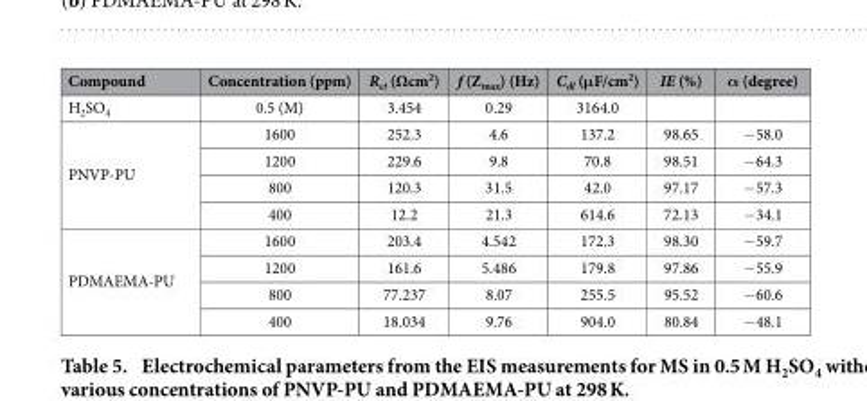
<table><thead><tr><td>Compound</td><td>Concentration (ppm)</td><td>R<sub>ct</sub> (Ωcm<sup>2</sup>)</td><td>f (Z<sub>max</sub>) (Hz)</td><td>C<sub>dl</sub> (μ F/cm<sup>2</sup>)</td><td>IE (%)</td><td>α (degree)</td></tr></thead><tbody><tr><td>H<sub>2</sub>SO<sub>4</sub></td><td>0.5 (M)</td><td>3.454</td><td>0.29</td><td>3164.0</td><td></td><td></td></tr><tr><td rowspan="4">PNVP-PU</td><td>1600</td><td>252.3</td><td>4.6</td><td>137.2</td><td>98.65</td><td>− 58.0</td></tr><tr><td>1200</td><td>229.6</td><td>9.8</td><td>70.8</td><td>98.51</td><td>− 64.3</td></tr><tr><td>800</td><td>120.3</td><td>31.5</td><td>42.0</td><td>97.17</td><td>− 57.3</td></tr><tr><td>400</td><td>12.2</td><td>21.3</td><td>614.6</td><td>72.13</td><td>− 34.1</td></tr><tr><td rowspan="4">PDMAEMA-PU</td><td>1600</td><td>203.4</td><td>4.542</td><td>172.3</td><td>98.30</td><td>− 59.7</td></tr><tr><td>1200</td><td>161.6</td><td>5.486</td><td>179.8</td><td>97.86</td><td>− 55.9</td></tr><tr><td>800</td><td>77.237</td><td>8.07</td><td>255.5</td><td>95.52</td><td>− 60.6</td></tr><tr><td>400</td><td>18.034</td><td>9.76</td><td>904.0</td><td>80.84</td><td>− 48.1</td></tr></tbody></table>